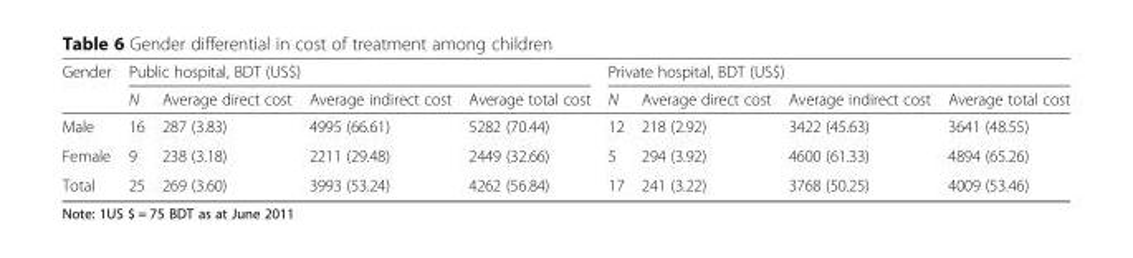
<table><thead><tr><td rowspan="2">Gender</td><td colspan="4">Public hospital, BDT (US$)</td><td colspan="4">Private hospital, BDT (US$)</td></tr><tr><td>N</td><td>Average direct cost</td><td>Average indirect cost</td><td>Average total cost</td><td>N</td><td>Average direct cost</td><td>Average indirect cost</td><td>Average total cost</td></tr></thead><tbody><tr><td>Male</td><td>16</td><td>287 (3.83)</td><td>4995 (66.61)</td><td>5282 (70.44)</td><td>12</td><td>218 (2.92)</td><td>3422 (45.63)</td><td>3641 (48.55)</td></tr><tr><td>Female</td><td>9</td><td>238 (3.18)</td><td>2211 (29.48)</td><td>2449 (32.66)</td><td>5</td><td>294 (3.92)</td><td>4600 (61.33)</td><td>4894 (65.26)</td></tr><tr><td>Total</td><td>25</td><td>269 (3.60)</td><td>3993 (53.24)</td><td>4262 (56.84)</td><td>17</td><td>241 (3.22)</td><td>3768 (50.25)</td><td>4009 (53.46)</td></tr></tbody></table>